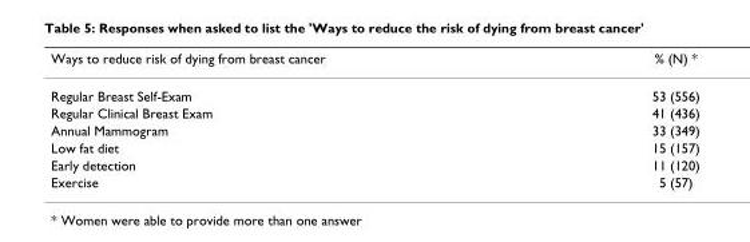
<table><thead><tr><td>Ways to reduce risk of dying from breast cancer</td><td>% (N) *</td></tr></thead><tbody><tr><td>Regular Breast Self-Exam</td><td>53 (556)</td></tr><tr><td>Regular Clinical Breast Exam</td><td>41 (436)</td></tr><tr><td>Annual Mammogram</td><td>33 (349)</td></tr><tr><td>Low fat diet</td><td>15 (157)</td></tr><tr><td>Early detection</td><td>11 (120)</td></tr><tr><td>Exercise</td><td>5 (57)</td></tr></tbody></table>